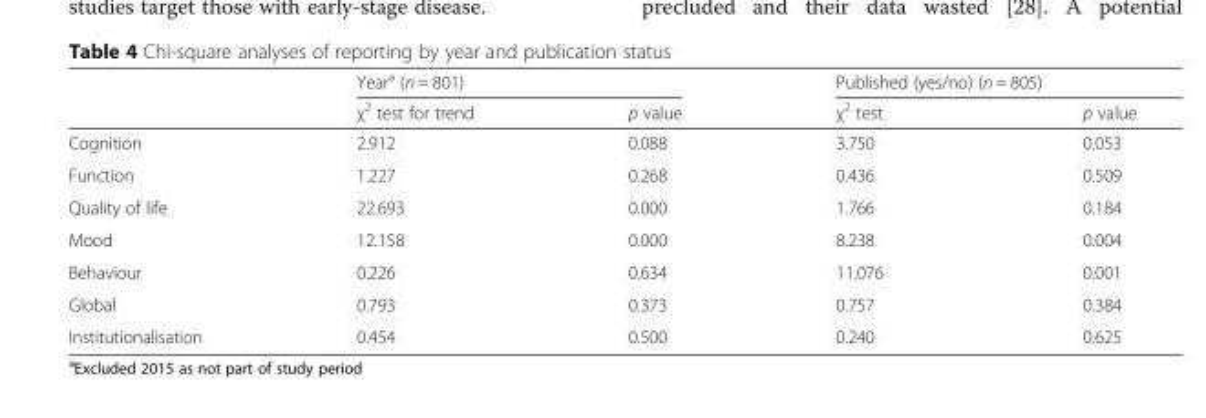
<table><thead><tr><td rowspan="2"></td><td colspan="2">Year<sup>a</sup> (n = 801)</td><td colspan="2">Published (yes/no) (n = 805)</td></tr><tr><td>χ<sup>2</sup> test for trend</td><td>p value</td><td>χ<sup>2</sup> test</td><td>p value</td></tr></thead><tbody><tr><td>Cognition</td><td>2.912</td><td>0.088</td><td>3.750</td><td>0.053</td></tr><tr><td>Function</td><td>1.227</td><td>0.268</td><td>0.436</td><td>0.509</td></tr><tr><td>Quality of life</td><td>22.693</td><td>0.000</td><td>1.766</td><td>0.184</td></tr><tr><td>Mood</td><td>12.158</td><td>0.000</td><td>8.238</td><td>0.004</td></tr><tr><td>Behaviour</td><td>0.226</td><td>0.634</td><td>11.076</td><td>0.001</td></tr><tr><td>Global</td><td>0.793</td><td>0.373</td><td>0.757</td><td>0.384</td></tr><tr><td>Institutionalisation</td><td>0.454</td><td>0.500</td><td>0.240</td><td>0.625</td></tr></tbody></table>